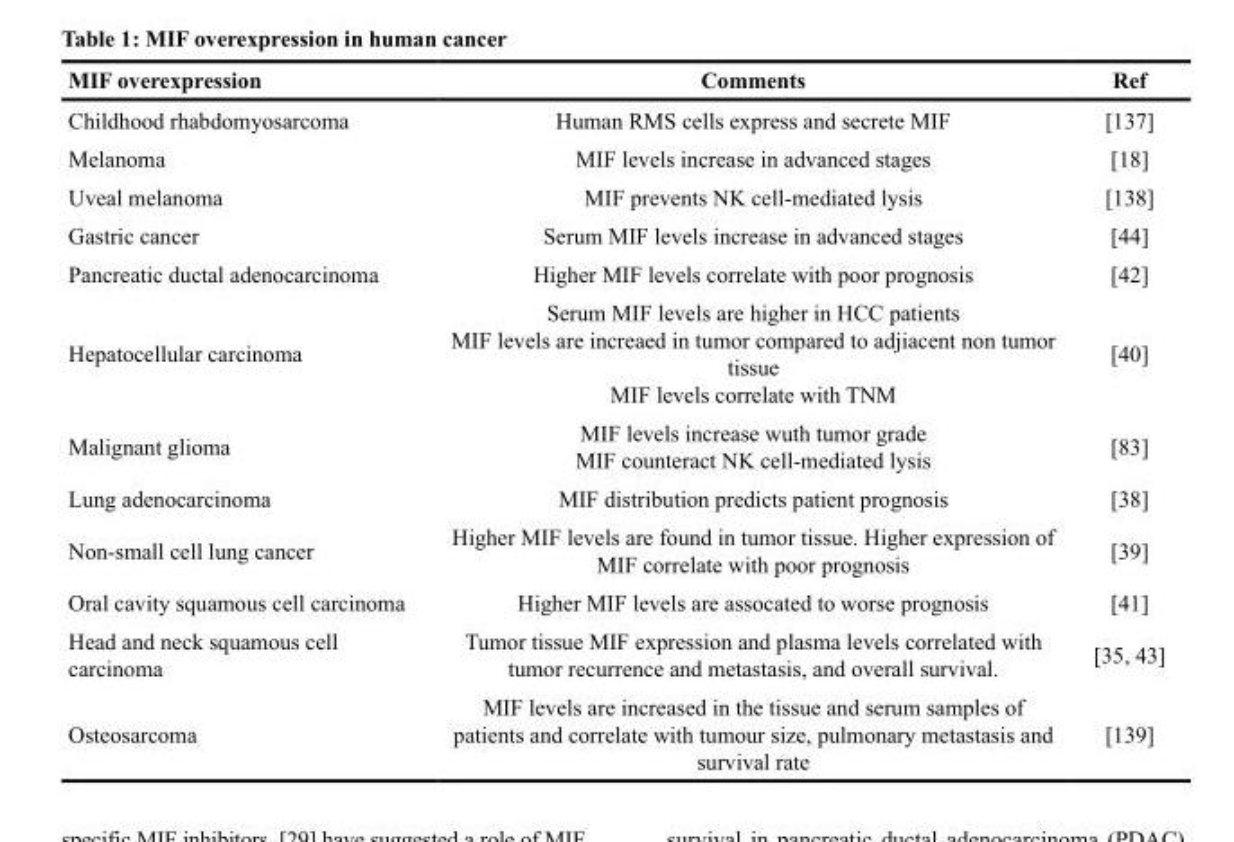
<table><thead><tr><td>MIF overexpression</td><td>Comments</td><td>Ref</td></tr></thead><tbody><tr><td>Childhood rhabdomyosarcoma</td><td>Human RMS cells express and secrete MIF</td><td>[137]</td></tr><tr><td>Melanoma</td><td>MIF levels increase in advanced stages</td><td>[18]</td></tr><tr><td>Uveal melanoma</td><td>MIF prevents NK cell-mediated lysis</td><td>[138]</td></tr><tr><td>Gastric cancer</td><td>Serum MIF levels increase in advanced stages</td><td>[44]</td></tr><tr><td>Pancreatic ductal adenocarcinoma</td><td>Higher MIF levels correlate with poor prognosis</td><td>[42]</td></tr><tr><td>Hepatocellular carcinoma</td><td>Serum MIF levels are higher in HCC patients MIF levels are increaed in tumor compared to adjiacent non tumor tissue MIF levels correlate with TNM</td><td>[40]</td></tr><tr><td>Malignant glioma</td><td>MIF levels increase wuth tumor grade MIF counteract NK cell-mediated lysis</td><td>[83]</td></tr><tr><td>Lung adenocarcinoma</td><td>MIF distribution predicts patient prognosis</td><td>[38]</td></tr><tr><td>Non-small cell lung cancer</td><td>Higher MIF levels are found in tumor tissue. Higher expression of MIF correlate with poor prognosis</td><td>[39]</td></tr><tr><td>Oral cavity squamous cell carcinoma</td><td>Higher MIF levels are assocated to worse prognosis</td><td>[41]</td></tr><tr><td>Head and neck squamous cell carcinoma</td><td>Tumor tissue MIF expression and plasma levels correlated with tumor recurrence and metastasis, and overall survival.</td><td>[35, 43]</td></tr><tr><td>Osteosarcoma</td><td>MIF levels are increased in the tissue and serum samples of patients and correlate with tumour size, pulmonary metastasis and survival rate</td><td>[139]</td></tr></tbody></table>